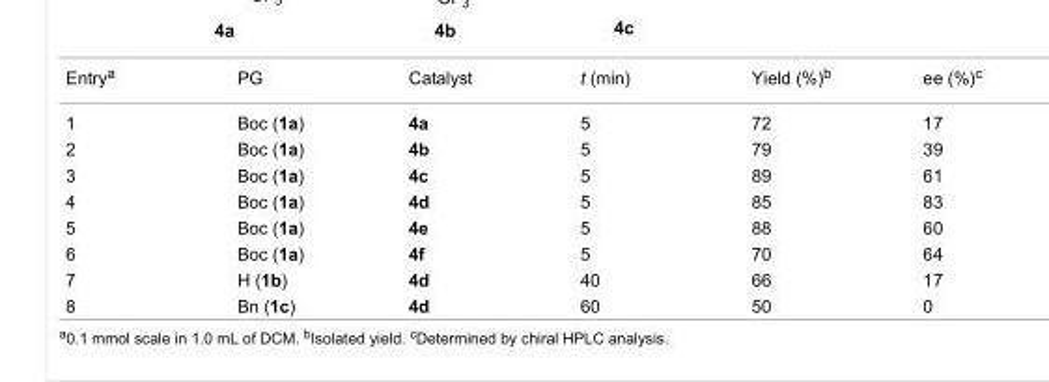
<table><tbody><tr><td>Entry<sup>a</sup></td><td>PG</td><td>Catalyst</td><td>t (min)</td><td>Yield (%)<sup>b</sup></td><td>ee (%)<sup>c</sup></td></tr><tr><td>1</td><td>Boc (1a)</td><td>4a</td><td>5</td><td>72</td><td>17</td></tr><tr><td>2</td><td>Boc (1a)</td><td>4b</td><td>5</td><td>79</td><td>39</td></tr><tr><td>3</td><td>Boc (1a)</td><td>4c</td><td>5</td><td>89</td><td>61</td></tr><tr><td>4</td><td>Boc (1a)</td><td>4d</td><td>5</td><td>85</td><td>83</td></tr><tr><td>5</td><td>Boc (1a)</td><td>4e</td><td>5</td><td>88</td><td>60</td></tr><tr><td>6</td><td>Boc (1a)</td><td>4f</td><td>5</td><td>70</td><td>64</td></tr><tr><td>7</td><td>H (1b)</td><td>4d</td><td>40</td><td>66</td><td>17</td></tr><tr><td>8</td><td>Bn (1c)</td><td>4d</td><td>60</td><td>50</td><td>0</td></tr></tbody></table>